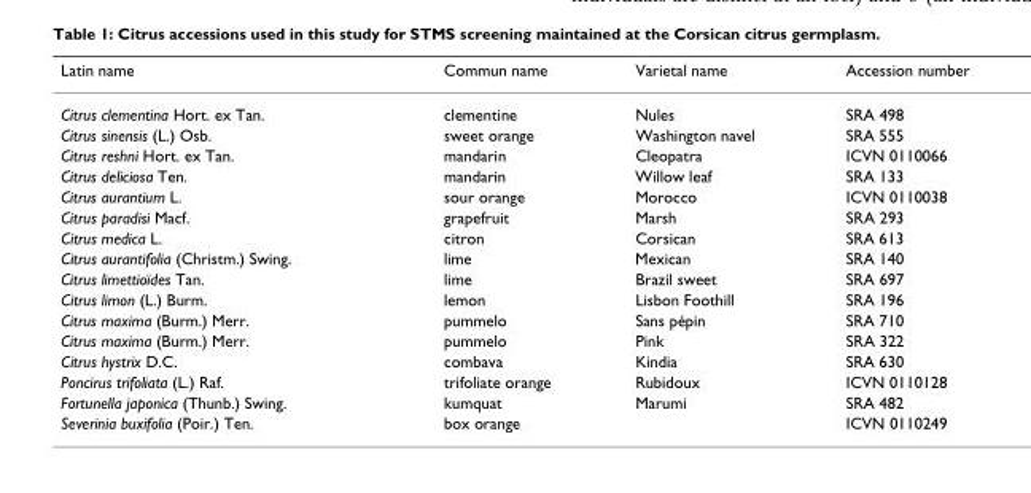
<table><thead><tr><td>Latin name</td><td>Commun name</td><td>Varietal name</td><td>Accession number</td></tr></thead><tbody><tr><td>Citrus clementina Hort. ex Tan.</td><td>clementine</td><td>Nules</td><td>SRA 498</td></tr><tr><td>Citrus sinensis (L.) Osb.</td><td>sweet orange</td><td>Washington navel</td><td>SRA 555</td></tr><tr><td>Citrus reshni Hort. ex Tan.</td><td>mandarin</td><td>Cleopatra</td><td>ICVN 0110066</td></tr><tr><td>Citrus deliciosa Ten.</td><td>mandarin</td><td>Willow leaf</td><td>SRA 133</td></tr><tr><td>Citrus aurantium L.</td><td>sour orange</td><td>Morocco</td><td>ICVN 0110038</td></tr><tr><td>Citrus paradisi Macf.</td><td>grapefruit</td><td>Marsh</td><td>SRA 293</td></tr><tr><td>Citrus medica L.</td><td>citron</td><td>Corsican</td><td>SRA 613</td></tr><tr><td>Citrus aurantifolia (Christm.) Swing.</td><td>lime</td><td>Mexican</td><td>SRA 140</td></tr><tr><td>Citrus limettioïdes Tan.</td><td>lime</td><td>Brazil sweet</td><td>SRA 697</td></tr><tr><td>Citrus limon (L.) Burm.</td><td>lemon</td><td>Lisbon Foothill</td><td>SRA 196</td></tr><tr><td>Citrus maxima (Burm.) Merr.</td><td>pummelo</td><td>Sans pépin</td><td>SRA 710</td></tr><tr><td>Citrus maxima (Burm.) Merr.</td><td>pummelo</td><td>Pink</td><td>SRA 322</td></tr><tr><td>Citrus hystrix D.C.</td><td>combava</td><td>Kindia</td><td>SRA 630</td></tr><tr><td>Poncirus trifoliata (L.) Raf.</td><td>trifoliate orange</td><td>Rubidoux</td><td>ICVN 0110128</td></tr><tr><td>Fortunella japonica (Thunb.) Swing.</td><td>kumquat</td><td>Marumi</td><td>SRA 482</td></tr><tr><td>Severinia buxifolia (Poir.) Ten.</td><td>box orange</td><td></td><td>ICVN 0110249</td></tr></tbody></table>